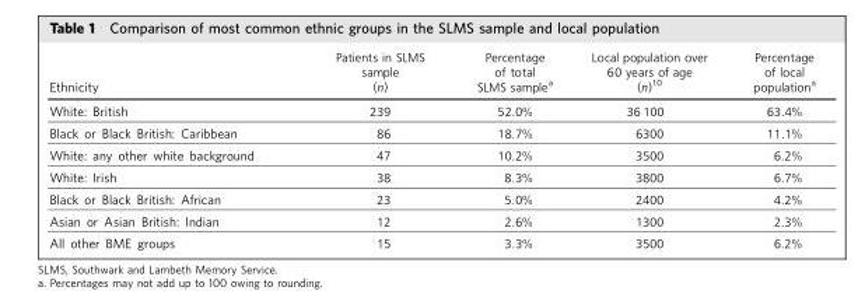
<table><thead><tr><td>Ethnicity</td><td>Patients in SLMS sample (n)</td><td>Percentage of total SLMS sample<sup>a</sup></td><td>Local population over 60 years of age (n)<sup>10</sup></td><td>Percentage of local population<sup>a</sup></td></tr></thead><tbody><tr><td>White: British</td><td>239</td><td>52.0%</td><td>36 100</td><td>63.4%</td></tr><tr><td>Black or Black British: Caribbean</td><td>86</td><td>18.7%</td><td>6300</td><td>11.1%</td></tr><tr><td>White: any other white background</td><td>47</td><td>10.2%</td><td>3500</td><td>6.2%</td></tr><tr><td>White: Irish</td><td>38</td><td>8.3%</td><td>3800</td><td>6.7%</td></tr><tr><td>Black or Black British: African</td><td>23</td><td>5.0%</td><td>2400</td><td>4.2%</td></tr><tr><td>Asian or Asian British: Indian</td><td>12</td><td>2.6%</td><td>1300</td><td>2.3%</td></tr><tr><td>All other BME groups</td><td>15</td><td>3.3%</td><td>3500</td><td>6.2%</td></tr></tbody></table>